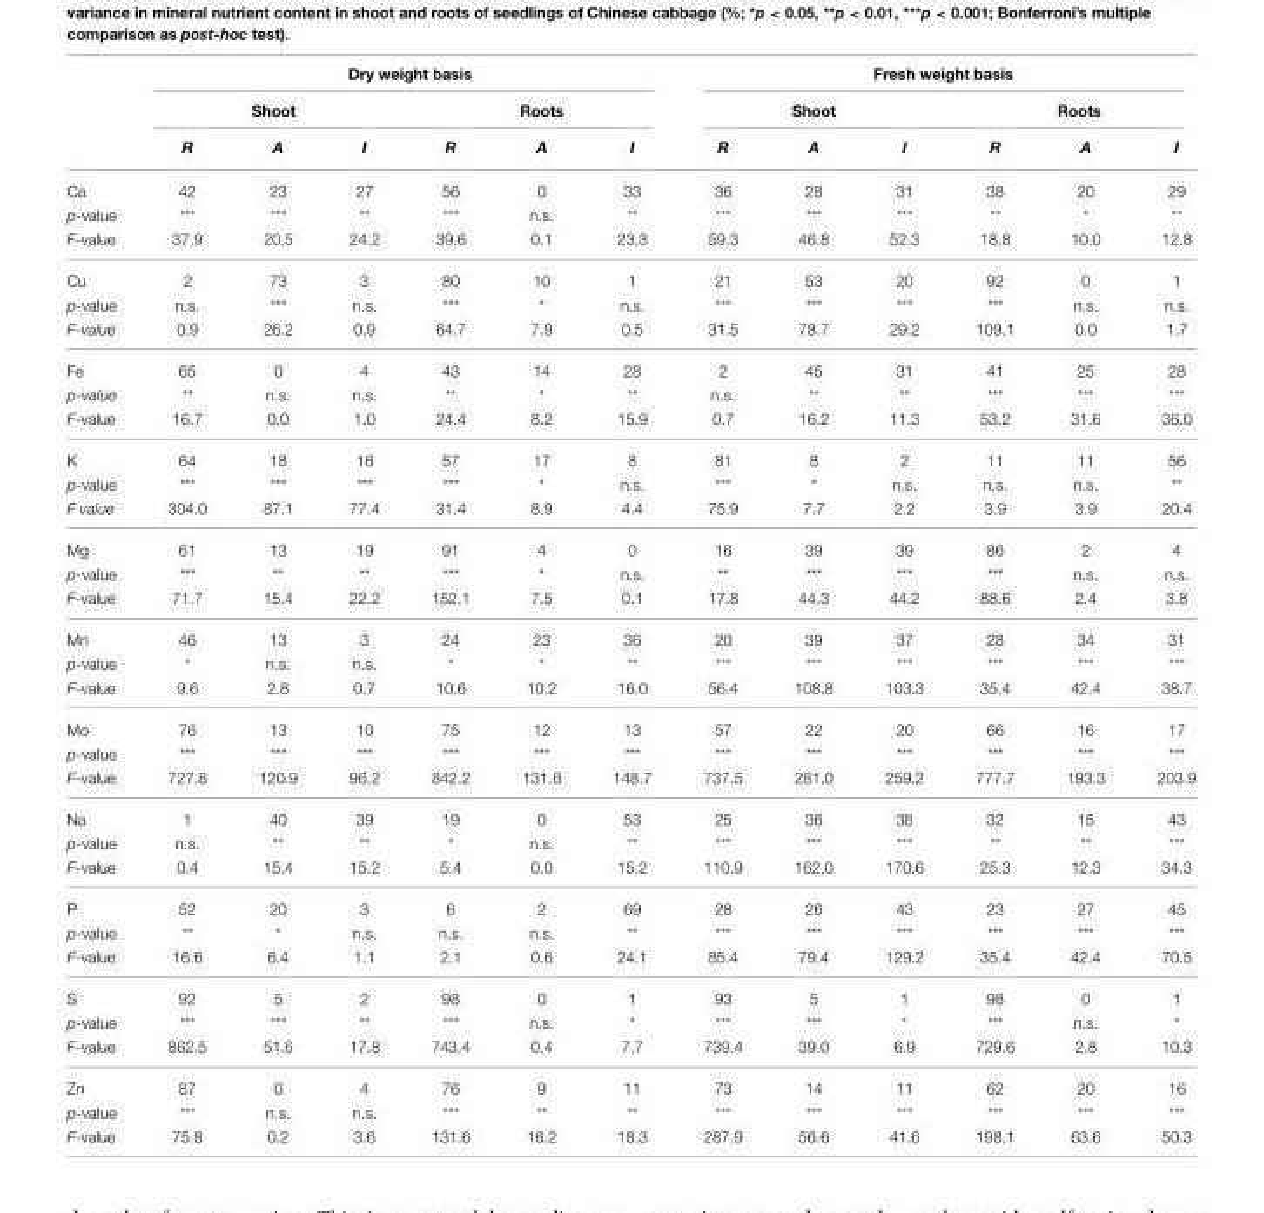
<table><thead><tr><td rowspan="3"></td><td colspan="6">Dry weight basis</td><td colspan="6">Fresh weight basis</td></tr><tr><td colspan="3">Shoot</td><td colspan="3">Roots</td><td colspan="3">Shoot</td><td colspan="3">Roots</td></tr><tr><td>R</td><td>A</td><td>I</td><td>R</td><td>A</td><td>I</td><td>R</td><td>A</td><td>I</td><td>R</td><td>A</td><td>I</td></tr></thead><tbody><tr><td>Ca</td><td>42</td><td>23</td><td>27</td><td>56</td><td>0</td><td>33</td><td>36</td><td>28</td><td>31</td><td>38</td><td>20</td><td>29</td></tr><tr><td>p-value</td><td>***</td><td>***</td><td>**</td><td>***</td><td>n.s.</td><td>**</td><td>***</td><td>***</td><td>***</td><td>**</td><td>*</td><td>**</td></tr><tr><td>F-value</td><td>37.9</td><td>20.5</td><td>24.2</td><td>39.6</td><td>0.1</td><td>23.3</td><td>59.3</td><td>46.8</td><td>52.3</td><td>18.8</td><td>10.0</td><td>12.8</td></tr><tr><td>Cu</td><td>2</td><td>73</td><td>3</td><td>80</td><td>10</td><td>1</td><td>21</td><td>53</td><td>20</td><td>92</td><td>0</td><td>1</td></tr><tr><td>p-value</td><td>n.s.</td><td>***</td><td>n.s.</td><td>***</td><td>*</td><td>n.s.</td><td>***</td><td>***</td><td>***</td><td>***</td><td>n.s.</td><td>n.s.</td></tr><tr><td>F-value</td><td>0.9</td><td>26.2</td><td>0.9</td><td>64.7</td><td>7.9</td><td>0.5</td><td>31.5</td><td>78.7</td><td>29.2</td><td>109.1</td><td>0.0</td><td>1.7</td></tr><tr><td>Fe</td><td>65</td><td>0</td><td>4</td><td>43</td><td>14</td><td>28</td><td>2</td><td>45</td><td>31</td><td>41</td><td>25</td><td>28</td></tr><tr><td>p-value</td><td>**</td><td>n.s.</td><td>n.s.</td><td>**</td><td>*</td><td>**</td><td>n.s.</td><td>**</td><td>**</td><td>***</td><td>***</td><td>***</td></tr><tr><td>F-value</td><td>16.7</td><td>0.0</td><td>1.0</td><td>24.4</td><td>8.2</td><td>15.9</td><td>0.7</td><td>16.2</td><td>11.3</td><td>53.2</td><td>31.6</td><td>36.0</td></tr><tr><td>K</td><td>64</td><td>18</td><td>16</td><td>57</td><td>17</td><td>8</td><td>81</td><td>8</td><td>2</td><td>11</td><td>11</td><td>56</td></tr><tr><td>p-value</td><td>***</td><td>***</td><td>***</td><td>***</td><td>*</td><td>n.s.</td><td>***</td><td>*</td><td>n.s.</td><td>n.s.</td><td>n.s.</td><td>**</td></tr><tr><td>F value</td><td>304.0</td><td>87.1</td><td>77.4</td><td>31.4</td><td>8.9</td><td>4.4</td><td>75.9</td><td>7.7</td><td>2.2</td><td>3.9</td><td>3.9</td><td>20.4</td></tr><tr><td>Mg</td><td>61</td><td>13</td><td>19</td><td>91</td><td>4</td><td>0</td><td>16</td><td>39</td><td>39</td><td>86</td><td>2</td><td>4</td></tr><tr><td>p-value</td><td>***</td><td>**</td><td>**</td><td>***</td><td>*</td><td>n.s.</td><td>**</td><td>***</td><td>***</td><td>***</td><td>n.s.</td><td>n.s.</td></tr><tr><td>F-value</td><td>71.7</td><td>15.4</td><td>22.2</td><td>152.1</td><td>7.5</td><td>0.1</td><td>17.8</td><td>44.3</td><td>44.2</td><td>88.6</td><td>2.4</td><td>3.8</td></tr><tr><td>Mn</td><td>46</td><td>13</td><td>3</td><td>24</td><td>23</td><td>36</td><td>20</td><td>39</td><td>37</td><td>28</td><td>34</td><td>31</td></tr><tr><td>p-value</td><td>*</td><td>n.s.</td><td>n.s.</td><td>*</td><td>*</td><td>**</td><td>***</td><td>***</td><td>***</td><td>***</td><td>***</td><td>***</td></tr><tr><td>F-value</td><td>9.6</td><td>2.8</td><td>0.7</td><td>10.6</td><td>10.2</td><td>16.0</td><td>56.4</td><td>108.8</td><td>103.3</td><td>35.4</td><td>42.4</td><td>38.7</td></tr><tr><td>Mo</td><td>76</td><td>13</td><td>10</td><td>75</td><td>12</td><td>13</td><td>57</td><td>22</td><td>20</td><td>66</td><td>16</td><td>17</td></tr><tr><td>p-value</td><td>***</td><td>***</td><td>***</td><td>***</td><td>***</td><td>***</td><td>***</td><td>***</td><td>***</td><td>***</td><td>***</td><td>***</td></tr><tr><td>F-value</td><td>727.8</td><td>120.9</td><td>96.2</td><td>842.2</td><td>131.6</td><td>148.7</td><td>737.5</td><td>281.0</td><td>259.2</td><td>777.7</td><td>193.3</td><td>203.9</td></tr><tr><td>Na</td><td>1</td><td>40</td><td>39</td><td>19</td><td>0</td><td>53</td><td>25</td><td>36</td><td>38</td><td>32</td><td>15</td><td>43</td></tr><tr><td>p-value</td><td>n.s.</td><td>**</td><td>**</td><td>*</td><td>n.s.</td><td>**</td><td>***</td><td>***</td><td>***</td><td>**</td><td>**</td><td>***</td></tr><tr><td>F-value</td><td>0.4</td><td>15.4</td><td>15.2</td><td>5.4</td><td>0.0</td><td>15.2</td><td>110.9</td><td>162.0</td><td>170.6</td><td>25.3</td><td>12.3</td><td>34.3</td></tr><tr><td>P</td><td>52</td><td>20</td><td>3</td><td>6</td><td>2</td><td>69</td><td>28</td><td>26</td><td>43</td><td>23</td><td>27</td><td>45</td></tr><tr><td>p-value</td><td>**</td><td>*</td><td>n.s.</td><td>n.s.</td><td>n.s.</td><td>**</td><td>***</td><td>***</td><td>***</td><td>***</td><td>***</td><td>***</td></tr><tr><td>F-value</td><td>16.6</td><td>6.4</td><td>1.1</td><td>2.1</td><td>0.6</td><td>24.1</td><td>85.4</td><td>79.4</td><td>129.2</td><td>35.4</td><td>42.4</td><td>70.5</td></tr><tr><td>S</td><td>92</td><td>5</td><td>2</td><td>98</td><td>0</td><td>1</td><td>93</td><td>5</td><td>1</td><td>98</td><td>0</td><td>1</td></tr><tr><td>p-value</td><td>***</td><td>***</td><td>**</td><td>***</td><td>n.s.</td><td>*</td><td>***</td><td>***</td><td>*</td><td>***</td><td>n.s.</td><td>*</td></tr><tr><td>F-value</td><td>862.5</td><td>51.6</td><td>17.8</td><td>743.4</td><td>0.4</td><td>7.7</td><td>739.4</td><td>39.0</td><td>6.9</td><td>729.6</td><td>2.8</td><td>10.3</td></tr><tr><td>Zn</td><td>87</td><td>0</td><td>4</td><td>76</td><td>9</td><td>11</td><td>73</td><td>14</td><td>11</td><td>62</td><td>20</td><td>16</td></tr><tr><td>p-value</td><td>***</td><td>n.s.</td><td>n.s.</td><td>***</td><td>**</td><td>**</td><td>***</td><td>***</td><td>***</td><td>***</td><td>***</td><td>***</td></tr><tr><td>F-value</td><td>75.8</td><td>0.2</td><td>3.6</td><td>131.6</td><td>16.2</td><td>18.3</td><td>287.9</td><td>56.6</td><td>41.6</td><td>198.1</td><td>63.6</td><td>50.3</td></tr></tbody></table>